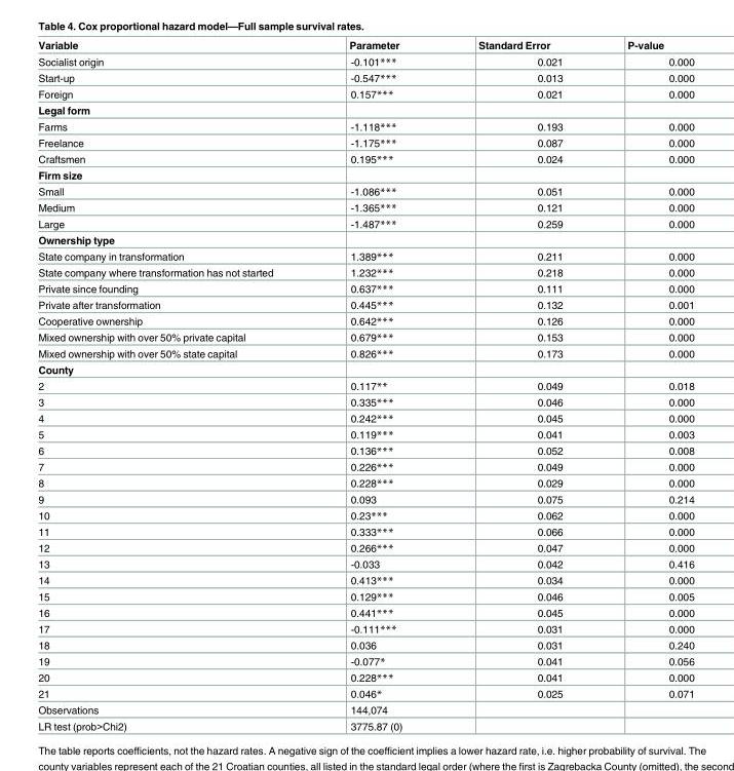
<table><thead><tr><td>Variable</td><td>Parameter</td><td>Standard Error</td><td>P-value</td></tr></thead><tbody><tr><td>Socialist origin</td><td>-0.101***</td><td>0.021</td><td>0.000</td></tr><tr><td>Start-up</td><td>-0.547***</td><td>0.013</td><td>0.000</td></tr><tr><td>Foreign</td><td>0.157***</td><td>0.021</td><td>0.000</td></tr><tr><td colspan="4">Legal form</td></tr><tr><td>Farms</td><td>-1.118***</td><td>0.193</td><td>0.000</td></tr><tr><td>Freelance</td><td>-1.175***</td><td>0.087</td><td>0.000</td></tr><tr><td>Craftsmen</td><td>0.195***</td><td>0.024</td><td>0.000</td></tr><tr><td colspan="4">Firm size</td></tr><tr><td>Small</td><td>-1.086***</td><td>0.051</td><td>0.000</td></tr><tr><td>Medium</td><td>-1.365***</td><td>0.121</td><td>0.000</td></tr><tr><td>Large</td><td>-1.487***</td><td>0.259</td><td>0.000</td></tr><tr><td colspan="4">Ownership type</td></tr><tr><td>State company in transformation</td><td>1.389***</td><td>0.211</td><td>0.000</td></tr><tr><td>State company where transformation has not started</td><td>1.232***</td><td>0.218</td><td>0.000</td></tr><tr><td>Private since founding</td><td>0.637***</td><td>0.111</td><td>0.000</td></tr><tr><td>Private after transformation</td><td>0.445***</td><td>0.132</td><td>0.001</td></tr><tr><td>Cooperative ownership</td><td>0.642***</td><td>0.126</td><td>0.000</td></tr><tr><td>Mixed ownership with over 50% private capital</td><td>0.679***</td><td>0.153</td><td>0.000</td></tr><tr><td>Mixed ownership with over 50% state capital</td><td>0.826***</td><td>0.173</td><td>0.000</td></tr><tr><td colspan="4">County</td></tr><tr><td>2</td><td>0.117**</td><td>0.049</td><td>0.018</td></tr><tr><td>3</td><td>0.335***</td><td>0.046</td><td>0.000</td></tr><tr><td>4</td><td>0.242***</td><td>0.045</td><td>0.000</td></tr><tr><td>5</td><td>0.119***</td><td>0.041</td><td>0.003</td></tr><tr><td>6</td><td>0.136***</td><td>0.052</td><td>0.008</td></tr><tr><td>7</td><td>0.226***</td><td>0.049</td><td>0.000</td></tr><tr><td>8</td><td>0.228***</td><td>0.029</td><td>0.000</td></tr><tr><td>9</td><td>0.093</td><td>0.075</td><td>0.214</td></tr><tr><td>10</td><td>0.23***</td><td>0.062</td><td>0.000</td></tr><tr><td>11</td><td>0.333***</td><td>0.066</td><td>0.000</td></tr><tr><td>12</td><td>0.266***</td><td>0.047</td><td>0.000</td></tr><tr><td>13</td><td>-0.033</td><td>0.042</td><td>0.416</td></tr><tr><td>14</td><td>0.413***</td><td>0.034</td><td>0.000</td></tr><tr><td>15</td><td>0.129***</td><td>0.046</td><td>0.005</td></tr><tr><td>16</td><td>0.441***</td><td>0.045</td><td>0.000</td></tr><tr><td>17</td><td>-0.111***</td><td>0.031</td><td>0.000</td></tr><tr><td>18</td><td>0.036</td><td>0.031</td><td>0.240</td></tr><tr><td>19</td><td>-0.077*</td><td>0.041</td><td>0.056</td></tr><tr><td>20</td><td>0.228***</td><td>0.041</td><td>0.000</td></tr><tr><td>21</td><td>0.046*</td><td>0.025</td><td>0.071</td></tr><tr><td>Observations</td><td>144,074</td><td></td><td></td></tr><tr><td>LR test (prob&gt;Chi2)</td><td>3775.87 (0)</td><td></td><td></td></tr></tbody></table>